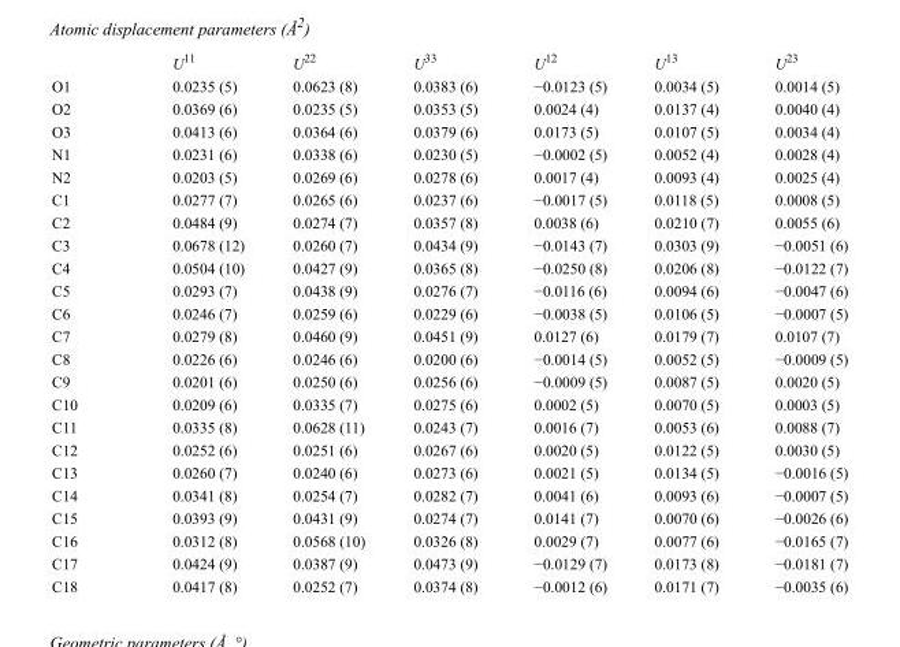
<table><thead><tr><td></td><td>U<sup>11</sup></td><td>U<sup>22</sup></td><td>U<sup>33</sup></td><td>U<sup>12</sup></td><td>U<sup>13</sup></td><td>U<sup>23</sup></td></tr></thead><tbody><tr><td>O1</td><td>0.0235 (5)</td><td>0.0623 (8)</td><td>0.0383 (6)</td><td>−0.0123 (5)</td><td>0.0034 (5)</td><td>0.0014 (5)</td></tr><tr><td>O2</td><td>0.0369 (6)</td><td>0.0235 (5)</td><td>0.0353 (5)</td><td>0.0024 (4)</td><td>0.0137 (4)</td><td>0.0040 (4)</td></tr><tr><td>O3</td><td>0.0413 (6)</td><td>0.0364 (6)</td><td>0.0379 (6)</td><td>0.0173 (5)</td><td>0.0107 (5)</td><td>0.0034 (4)</td></tr><tr><td>N1</td><td>0.0231 (6)</td><td>0.0338 (6)</td><td>0.0230 (5)</td><td>−0.0002 (5)</td><td>0.0052 (4)</td><td>0.0028 (4)</td></tr><tr><td>N2</td><td>0.0203 (5)</td><td>0.0269 (6)</td><td>0.0278 (6)</td><td>0.0017 (4)</td><td>0.0093 (4)</td><td>0.0025 (4)</td></tr><tr><td>C1</td><td>0.0277 (7)</td><td>0.0265 (6)</td><td>0.0237 (6)</td><td>−0.0017 (5)</td><td>0.0118 (5)</td><td>0.0008 (5)</td></tr><tr><td>C2</td><td>0.0484 (9)</td><td>0.0274 (7)</td><td>0.0357 (8)</td><td>0.0038 (6)</td><td>0.0210 (7)</td><td>0.0055 (6)</td></tr><tr><td>C3</td><td>0.0678 (12)</td><td>0.0260 (7)</td><td>0.0434 (9)</td><td>−0.0143 (7)</td><td>0.0303 (9)</td><td>−0.0051 (6)</td></tr><tr><td>C4</td><td>0.0504 (10)</td><td>0.0427 (9)</td><td>0.0365 (8)</td><td>−0.0250 (8)</td><td>0.0206 (8)</td><td>−0.0122 (7)</td></tr><tr><td>C5</td><td>0.0293 (7)</td><td>0.0438 (9)</td><td>0.0276 (7)</td><td>−0.0116 (6)</td><td>0.0094 (6)</td><td>−0.0047 (6)</td></tr><tr><td>C6</td><td>0.0246 (7)</td><td>0.0259 (6)</td><td>0.0229 (6)</td><td>−0.0038 (5)</td><td>0.0106 (5)</td><td>−0.0007 (5)</td></tr><tr><td>C7</td><td>0.0279 (8)</td><td>0.0460 (9)</td><td>0.0451 (9)</td><td>0.0127 (6)</td><td>0.0179 (7)</td><td>0.0107 (7)</td></tr><tr><td>C8</td><td>0.0226 (6)</td><td>0.0246 (6)</td><td>0.0200 (6)</td><td>−0.0014 (5)</td><td>0.0052 (5)</td><td>−0.0009 (5)</td></tr><tr><td>C9</td><td>0.0201 (6)</td><td>0.0250 (6)</td><td>0.0256 (6)</td><td>−0.0009 (5)</td><td>0.0087 (5)</td><td>0.0020 (5)</td></tr><tr><td>C10</td><td>0.0209 (6)</td><td>0.0335 (7)</td><td>0.0275 (6)</td><td>0.0002 (5)</td><td>0.0070 (5)</td><td>0.0003 (5)</td></tr><tr><td>C11</td><td>0.0335 (8)</td><td>0.0628 (11)</td><td>0.0243 (7)</td><td>0.0016 (7)</td><td>0.0053 (6)</td><td>0.0088 (7)</td></tr><tr><td>C12</td><td>0.0252 (6)</td><td>0.0251 (6)</td><td>0.0267 (6)</td><td>0.0020 (5)</td><td>0.0122 (5)</td><td>0.0030 (5)</td></tr><tr><td>C13</td><td>0.0260 (7)</td><td>0.0240 (6)</td><td>0.0273 (6)</td><td>0.0021 (5)</td><td>0.0134 (5)</td><td>−0.0016 (5)</td></tr><tr><td>C14</td><td>0.0341 (8)</td><td>0.0254 (7)</td><td>0.0282 (7)</td><td>0.0041 (6)</td><td>0.0093 (6)</td><td>−0.0007 (5)</td></tr><tr><td>C15</td><td>0.0393 (9)</td><td>0.0431 (9)</td><td>0.0274 (7)</td><td>0.0141 (7)</td><td>0.0070 (6)</td><td>−0.0026 (6)</td></tr><tr><td>C16</td><td>0.0312 (8)</td><td>0.0568 (10)</td><td>0.0326 (8)</td><td>0.0029 (7)</td><td>0.0077 (6)</td><td>−0.0165 (7)</td></tr><tr><td>C17</td><td>0.0424 (9)</td><td>0.0387 (9)</td><td>0.0473 (9)</td><td>−0.0129 (7)</td><td>0.0173 (8)</td><td>−0.0181 (7)</td></tr><tr><td>C18</td><td>0.0417 (8)</td><td>0.0252 (7)</td><td>0.0374 (8)</td><td>−0.0012 (6)</td><td>0.0171 (7)</td><td>−0.0035 (6)</td></tr></tbody></table>